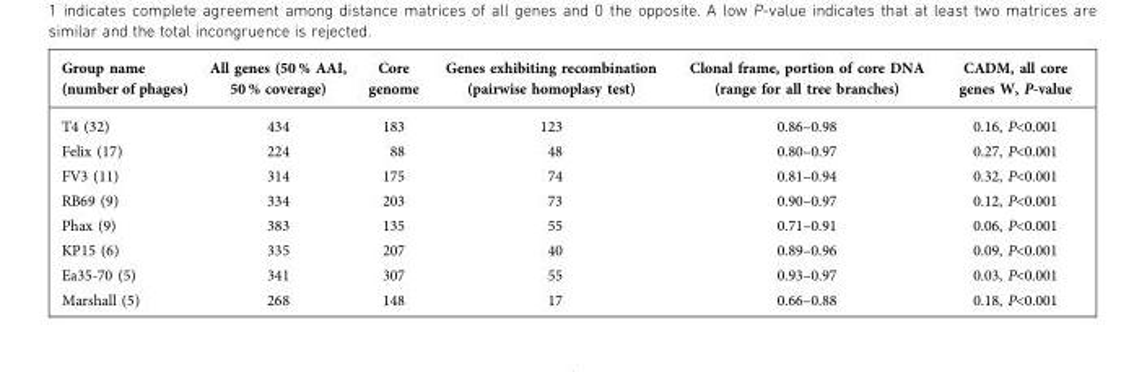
<table><thead><tr><td>Group name (number of phages)</td><td>All genes (50 % AAI, 50 % coverage)</td><td>Core genome</td><td>Genes exhibiting recombination (pairwise homoplasy test)</td><td>Clonal frame, portion of core DNA (range for all tree branches)</td><td>CADM, all core genes W, P-value</td></tr></thead><tbody><tr><td>T4 (32)</td><td>434</td><td>183</td><td>123</td><td>0.86–0.98</td><td>0.16, P&lt;0.001</td></tr><tr><td>Felix (17)</td><td>224</td><td>88</td><td>48</td><td>0.80–0.97</td><td>0.27, P&lt;0.001</td></tr><tr><td>FV3 (11)</td><td>314</td><td>175</td><td>74</td><td>0.81–0.94</td><td>0.32, P&lt;0.001</td></tr><tr><td>RB69 (9)</td><td>334</td><td>203</td><td>73</td><td>0.90–0.97</td><td>0.12, P&lt;0.001</td></tr><tr><td>Phax (9)</td><td>383</td><td>135</td><td>55</td><td>0.71–0.91</td><td>0.06, P&lt;0.001</td></tr><tr><td>KP15 (6)</td><td>335</td><td>207</td><td>40</td><td>0.89–0.96</td><td>0.09, P&lt;0.001</td></tr><tr><td>Ea35-70 (5)</td><td>341</td><td>307</td><td>55</td><td>0.93–0.97</td><td>0.03, P&lt;0.001</td></tr><tr><td>Marshall (5)</td><td>268</td><td>148</td><td>17</td><td>0.66–0.88</td><td>0.18, P&lt;0.001</td></tr></tbody></table>